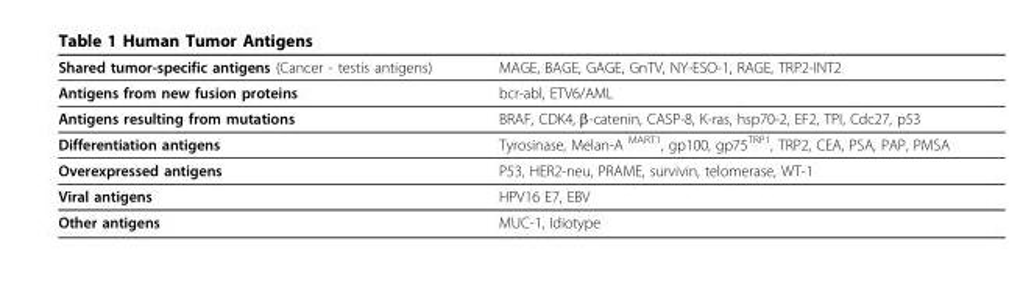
<table><thead><tr><td>Shared tumor-specific antigens (Cancer - testis antigens)</td><td>MAGE, BAGE, GAGE, GnTV, NY-ESO-1, RAGE, TRP2-INT2</td></tr></thead><tbody><tr><td>Antigens from new fusion proteins</td><td>bcr-abl, ETV6/AML</td></tr><tr><td>Antigens resulting from mutations</td><td>BRAF, CDK4, β-catenin, CASP-8, K-ras, hsp70-2, EF2, TPI, Cdc27, p53</td></tr><tr><td>Differentiation antigens</td><td>Tyrosinase, Melan-A <sup>MART1</sup>, gp100, gp75<sup>TRP1</sup>, TRP2, CEA, PSA, PAP, PMSA</td></tr><tr><td>Overexpressed antigens</td><td>P53, HER2-neu, PRAME, survivin, telomerase, WT-1</td></tr><tr><td>Viral antigens</td><td>HPV16 E7, EBV</td></tr><tr><td>Other antigens</td><td>MUC-1, Idiotype</td></tr></tbody></table>